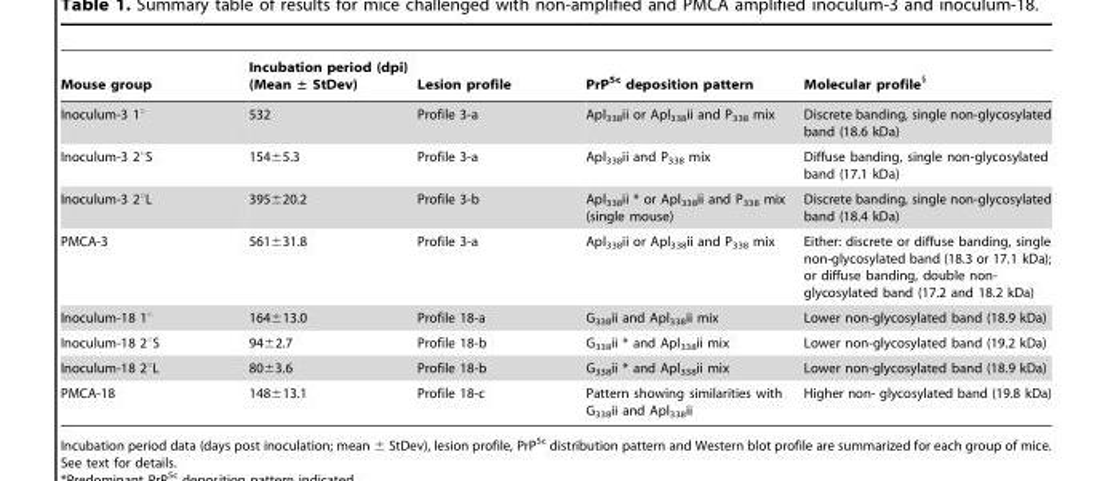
<table><thead><tr><td>Mouse group</td><td>Incubation period (dpi) (Mean ± StDev)</td><td>Lesion profile</td><td>PrP<sup>Sc</sup> deposition pattern</td><td>Molecular profile§</td></tr></thead><tbody><tr><td>Inoculum-3 1°</td><td>532</td><td>Profile 3-a</td><td>Apl<sub>338</sub>ii or Apl<sub>338</sub>ii and P<sub>338</sub> mix</td><td>Discrete banding, single non-glycosylated band (18.6 kDa)</td></tr><tr><td>Inoculum-3 2°S</td><td>154±5.3</td><td>Profile 3-a</td><td>Apl<sub>338</sub>ii and P<sub>338</sub> mix</td><td>Diffuse banding, single non-glycosylated band (17.1 kDa)</td></tr><tr><td>Inoculum-3 2°L</td><td>395±20.2</td><td>Profile 3-b</td><td>Apl<sub>338</sub>ii * or Apl<sub>338</sub>ii and P<sub>338</sub> mix (single mouse)</td><td>Discrete banding, single non-glycosylated band (18.4 kDa)</td></tr><tr><td>PMCA-3</td><td>561±31.8</td><td>Profile 3-a</td><td>Apl<sub>338</sub>ii or Apl<sub>338</sub>ii and P<sub>338</sub> mix</td><td>Either: discrete or diffuse banding, single non-glycosylated band (18.3 or 17.1 kDa); or diffuse banding, double non- glycosylated band (17.2 and 18.2 kDa)</td></tr><tr><td>Inoculum-18 1°</td><td>164±13.0</td><td>Profile 18-a</td><td>G<sub>338</sub>ii and Apl<sub>338</sub>ii mix</td><td>Lower non-glycosylated band (18.9 kDa)</td></tr><tr><td>Inoculum-18 2°S</td><td>94±2.7</td><td>Profile 18-b</td><td>G<sub>338</sub>ii * and Apl<sub>338</sub>ii mix</td><td>Lower non-glycosylated band (19.2 kDa)</td></tr><tr><td>Inoculum-18 2°L</td><td>80±3.6</td><td>Profile 18-b</td><td>G<sub>338</sub>ii * and Apl<sub>338</sub>ii mix</td><td>Lower non-glycosylated band (18.9 kDa)</td></tr><tr><td>PMCA-18</td><td>148±13.1</td><td>Profile 18-c</td><td>Pattern showing similarities with G<sub>338</sub>ii and Apl<sub>338</sub>ii</td><td>Higher non- glycosylated band (19.8 kDa)</td></tr></tbody></table>